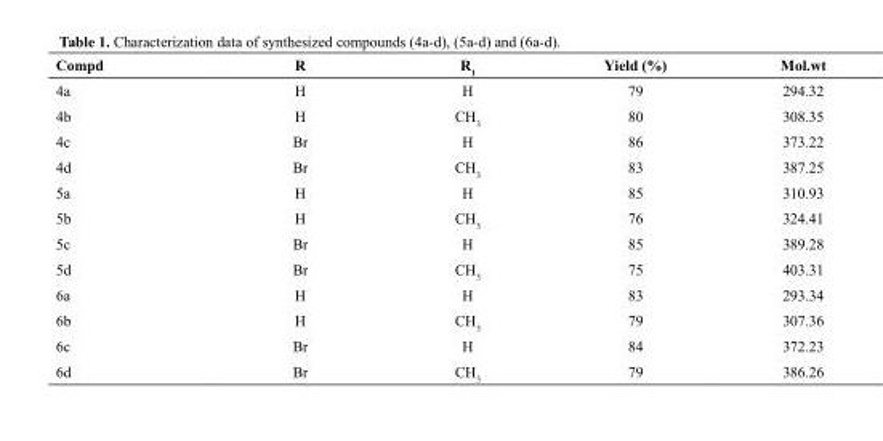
<table><thead><tr><td>Compd</td><td>R</td><td>R<sub>1</sub></td><td>Yield (%)</td><td>Mol.wt</td></tr></thead><tbody><tr><td>4a</td><td>H</td><td>H</td><td>79</td><td>294.32</td></tr><tr><td>4b</td><td>H</td><td>CH<sub>3</sub></td><td>80</td><td>308.35</td></tr><tr><td>4c</td><td>Br</td><td>H</td><td>86</td><td>373.22</td></tr><tr><td>4d</td><td>Br</td><td>CH<sub>3</sub></td><td>83</td><td>387.25</td></tr><tr><td>5a</td><td>H</td><td>H</td><td>85</td><td>310.93</td></tr><tr><td>5b</td><td>H</td><td>CH<sub>3</sub></td><td>76</td><td>324.41</td></tr><tr><td>5c</td><td>Br</td><td>H</td><td>85</td><td>389.28</td></tr><tr><td>5d</td><td>Br</td><td>CH<sub>3</sub></td><td>75</td><td>403.31</td></tr><tr><td>6a</td><td>H</td><td>H</td><td>83</td><td>293.34</td></tr><tr><td>6b</td><td>H</td><td>CH<sub>3</sub></td><td>79</td><td>307.36</td></tr><tr><td>6c</td><td>Br</td><td>H</td><td>84</td><td>372.23</td></tr><tr><td>6d</td><td>Br</td><td>CH<sub>3</sub></td><td>79</td><td>386.26</td></tr></tbody></table>